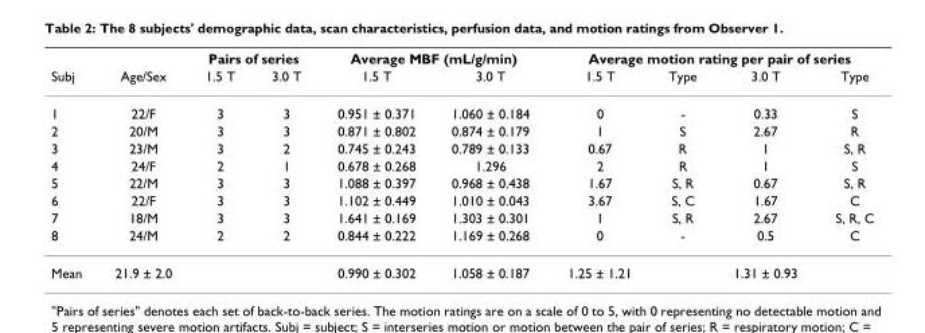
<table><thead><tr><td rowspan="2">Subj</td><td rowspan="2">Age/Sex</td><td colspan="2">Pairs of series</td><td colspan="2">Average MBF (mL/g/min)</td><td colspan="4">Average motion rating per pair of series</td></tr><tr><td>1.5 T</td><td>3.0 T</td><td>1.5 T</td><td>3.0 T</td><td>1.5 T</td><td>Type</td><td>3.0 T</td><td>Type</td></tr></thead><tbody><tr><td>1</td><td>22/F</td><td>3</td><td>3</td><td>0.951 ± 0.371</td><td>1.060 ± 0.184</td><td>0</td><td>-</td><td>0.33</td><td>S</td></tr><tr><td>2</td><td>20/M</td><td>3</td><td>3</td><td>0.871 ± 0.802</td><td>0.874 ± 0.179</td><td>1</td><td>S</td><td>2.67</td><td>R</td></tr><tr><td>3</td><td>23/M</td><td>3</td><td>2</td><td>0.745 ± 0.243</td><td>0.789 ± 0.133</td><td>0.67</td><td>R</td><td>1</td><td>S, R</td></tr><tr><td>4</td><td>24/F</td><td>2</td><td>1</td><td>0.678 ± 0.268</td><td>1.296</td><td>2</td><td>R</td><td>1</td><td>S</td></tr><tr><td>5</td><td>22/M</td><td>3</td><td>3</td><td>1.088 ± 0.397</td><td>0.968 ± 0.438</td><td>1.67</td><td>S, R</td><td>0.67</td><td>S, R</td></tr><tr><td>6</td><td>22/F</td><td>3</td><td>3</td><td>1.102 ± 0.449</td><td>1.010 ± 0.043</td><td>3.67</td><td>S, C</td><td>1.67</td><td>C</td></tr><tr><td>7</td><td>18/M</td><td>3</td><td>3</td><td>1.641 ± 0.169</td><td>1.303 ± 0.301</td><td>1</td><td>S, R</td><td>2.67</td><td>S, R, C</td></tr><tr><td>8</td><td>24/M</td><td>2</td><td>2</td><td>0.844 ± 0.222</td><td>1.169 ± 0.268</td><td>0</td><td>-</td><td>0.5</td><td>C</td></tr><tr><td>Mean</td><td>21.9 ± 2.0</td><td></td><td></td><td>0.990 ± 0.302</td><td>1.058 ± 0.187</td><td>1.25 ± 1.21</td><td></td><td>1.31 ± 0.93</td><td></td></tr></tbody></table>